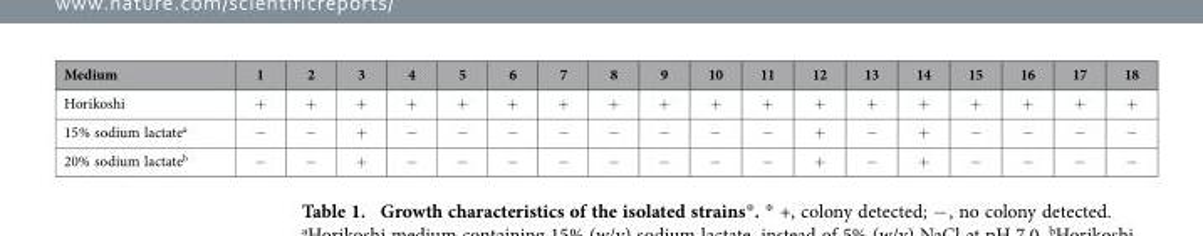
<table><thead><tr><td>Medium</td><td>1</td><td>2</td><td>3</td><td>4</td><td>5</td><td>6</td><td>7</td><td>8</td><td>9</td><td>10</td><td>11</td><td>12</td><td>13</td><td>14</td><td>15</td><td>16</td><td>17</td><td>18</td></tr></thead><tbody><tr><td>Horikoshi</td><td>+</td><td>+</td><td>+</td><td>+</td><td>+</td><td>+</td><td>+</td><td>+</td><td>+</td><td>+</td><td>+</td><td>+</td><td>+</td><td>+</td><td>+</td><td>+</td><td>+</td><td>+</td></tr><tr><td>15% sodium lactate<sup>a</sup></td><td>−</td><td>−</td><td>+</td><td>−</td><td>−</td><td>−</td><td>−</td><td>−</td><td>−</td><td>−</td><td>−</td><td>+</td><td>−</td><td>+</td><td>−</td><td>−</td><td>−</td><td>−</td></tr><tr><td>20% sodium lactate<sup>b</sup></td><td>−</td><td>−</td><td>+</td><td>−</td><td>−</td><td>−</td><td>−</td><td>−</td><td>−</td><td>−</td><td>−</td><td>+</td><td>−</td><td>+</td><td>−</td><td>−</td><td>−</td><td>−</td></tr></tbody></table>